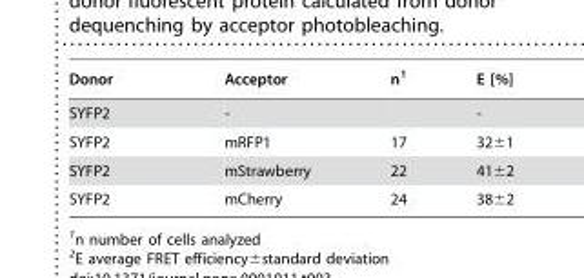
<table><thead><tr><td>Donor</td><td>Acceptor</td><td>n<sup>1</sup></td><td>E [%]</td></tr></thead><tbody><tr><td>SYFP2</td><td>-</td><td></td><td>-</td></tr><tr><td>SYFP2</td><td>mRFP1</td><td>17</td><td>32±1</td></tr><tr><td>SYFP2</td><td>mStrawberry</td><td>22</td><td>41±2</td></tr><tr><td>SYFP2</td><td>mCherry</td><td>24</td><td>38±2</td></tr></tbody></table>